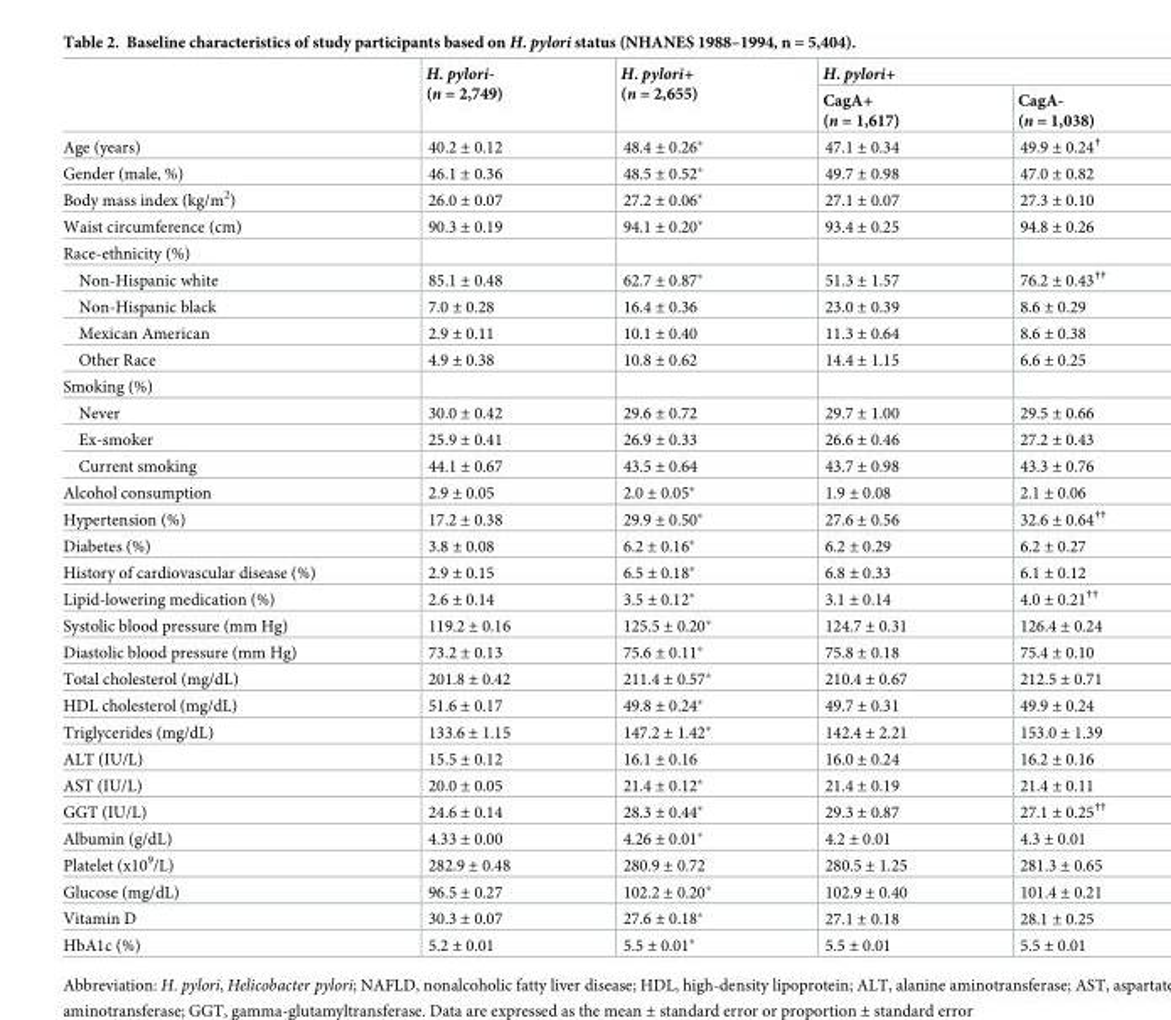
<table><thead><tr><td rowspan="2"></td><td rowspan="2">H. pylori- (n = 2,749)</td><td rowspan="2">H. pylori+ (n = 2,655)</td><td colspan="2">H. pylori+</td></tr><tr><td>CagA+ (n = 1,617)</td><td>CagA- (n = 1,038)</td></tr></thead><tbody><tr><td>Age (years)</td><td>40.2 ± 0.12</td><td>48.4 ± 0.26*</td><td>47.1 ± 0.34</td><td>49.9 ± 0.24<sup>†</sup></td></tr><tr><td>Gender (male, %)</td><td>46.1 ± 0.36</td><td>48.5 ± 0.52*</td><td>49.7 ± 0.98</td><td>47.0 ± 0.82</td></tr><tr><td>Body mass index (kg/m<sup>2</sup>)</td><td>26.0 ± 0.07</td><td>27.2 ± 0.06*</td><td>27.1 ± 0.07</td><td>27.3 ± 0.10</td></tr><tr><td>Waist circumference (cm)</td><td>90.3 ± 0.19</td><td>94.1 ± 0.20*</td><td>93.4 ± 0.25</td><td>94.8 ± 0.26</td></tr><tr><td colspan="5">Race-ethnicity (%)</td></tr><tr><td>Non-Hispanic white</td><td>85.1 ± 0.48</td><td>62.7 ± 0.87*</td><td>51.3 ± 1.57</td><td>76.2 ± 0.43<sup>††</sup></td></tr><tr><td>Non-Hispanic black</td><td>7.0 ± 0.28</td><td>16.4 ± 0.36</td><td>23.0 ± 0.39</td><td>8.6 ± 0.29</td></tr><tr><td>Mexican American</td><td>2.9 ± 0.11</td><td>10.1 ± 0.40</td><td>11.3 ± 0.64</td><td>8.6 ± 0.38</td></tr><tr><td>Other Race</td><td>4.9 ± 0.38</td><td>10.8 ± 0.62</td><td>14.4 ± 1.15</td><td>6.6 ± 0.25</td></tr><tr><td colspan="5">Smoking (%)</td></tr><tr><td>Never</td><td>30.0 ± 0.42</td><td>29.6 ± 0.72</td><td>29.7 ± 1.00</td><td>29.5 ± 0.66</td></tr><tr><td>Ex-smoker</td><td>25.9 ± 0.41</td><td>26.9 ± 0.33</td><td>26.6 ± 0.46</td><td>27.2 ± 0.43</td></tr><tr><td>Current smoking</td><td>44.1 ± 0.67</td><td>43.5 ± 0.64</td><td>43.7 ± 0.98</td><td>43.3 ± 0.76</td></tr><tr><td>Alcohol consumption</td><td>2.9 ± 0.05</td><td>2.0 ± 0.05*</td><td>1.9 ± 0.08</td><td>2.1 ± 0.06</td></tr><tr><td>Hypertension (%)</td><td>17.2 ± 0.38</td><td>29.9 ± 0.50*</td><td>27.6 ± 0.56</td><td>32.6 ± 0.64<sup>††</sup></td></tr><tr><td>Diabetes (%)</td><td>3.8 ± 0.08</td><td>6.2 ± 0.16*</td><td>6.2 ± 0.29</td><td>6.2 ± 0.27</td></tr><tr><td>History of cardiovascular disease (%)</td><td>2.9 ± 0.15</td><td>6.5 ± 0.18*</td><td>6.8 ± 0.33</td><td>6.1 ± 0.12</td></tr><tr><td>Lipid-lowering medication (%)</td><td>2.6 ± 0.14</td><td>3.5 ± 0.12*</td><td>3.1 ± 0.14</td><td>4.0 ± 0.21<sup>††</sup></td></tr><tr><td>Systolic blood pressure (mm Hg)</td><td>119.2 ± 0.16</td><td>125.5 ± 0.20*</td><td>124.7 ± 0.31</td><td>126.4 ± 0.24</td></tr><tr><td>Diastolic blood pressure (mm Hg)</td><td>73.2 ± 0.13</td><td>75.6 ± 0.11*</td><td>75.8 ± 0.18</td><td>75.4 ± 0.10</td></tr><tr><td>Total cholesterol (mg/dL)</td><td>201.8 ± 0.42</td><td>211.4 ± 0.57*</td><td>210.4 ± 0.67</td><td>212.5 ± 0.71</td></tr><tr><td>HDL cholesterol (mg/dL)</td><td>51.6 ± 0.17</td><td>49.8 ± 0.24*</td><td>49.7 ± 0.31</td><td>49.9 ± 0.24</td></tr><tr><td>Triglycerides (mg/dL)</td><td>133.6 ± 1.15</td><td>147.2 ± 1.42*</td><td>142.4 ± 2.21</td><td>153.0 ± 1.39</td></tr><tr><td>ALT (IU/L)</td><td>15.5 ± 0.12</td><td>16.1 ± 0.16</td><td>16.0 ± 0.24</td><td>16.2 ± 0.16</td></tr><tr><td>AST (IU/L)</td><td>20.0 ± 0.05</td><td>21.4 ± 0.12*</td><td>21.4 ± 0.19</td><td>21.4 ± 0.11</td></tr><tr><td>GGT (IU/L)</td><td>24.6 ± 0.14</td><td>28.3 ± 0.44*</td><td>29.3 ± 0.87</td><td>27.1 ± 0.25<sup>††</sup></td></tr><tr><td>Albumin (g/dL)</td><td>4.33 ± 0.00</td><td>4.26 ± 0.01*</td><td>4.2 ± 0.01</td><td>4.3 ± 0.01</td></tr><tr><td>Platelet (x10<sup>9</sup>/L)</td><td>282.9 ± 0.48</td><td>280.9 ± 0.72</td><td>280.5 ± 1.25</td><td>281.3 ± 0.65</td></tr><tr><td>Glucose (mg/dL)</td><td>96.5 ± 0.27</td><td>102.2 ± 0.20*</td><td>102.9 ± 0.40</td><td>101.4 ± 0.21</td></tr><tr><td>Vitamin D</td><td>30.3 ± 0.07</td><td>27.6 ± 0.18*</td><td>27.1 ± 0.18</td><td>28.1 ± 0.25</td></tr><tr><td>HbA1c (%)</td><td>5.2 ± 0.01</td><td>5.5 ± 0.01*</td><td>5.5 ± 0.01</td><td>5.5 ± 0.01</td></tr></tbody></table>